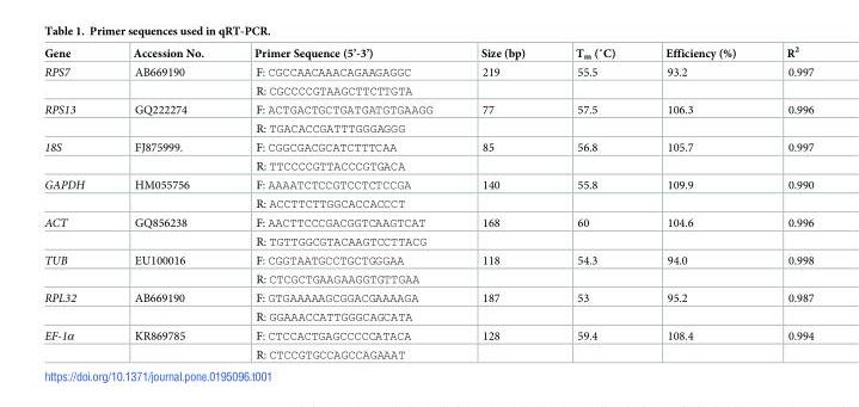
<table><thead><tr><td>Gene</td><td>Accession No.</td><td>Primer Sequence (5’-3’)</td><td>Size (bp)</td><td>Tm (˚C)</td><td>Efficiency (%)</td><td>R<sup>2</sup></td></tr></thead><tbody><tr><td rowspan="2">RPS7</td><td>AB669190</td><td>F: CGCCAACAAACAGAAGAGGC</td><td>219</td><td>55.5</td><td>93.2</td><td>0.997</td></tr><tr><td></td><td>R: CGCCCCGTAAGCTTCTTGTA</td><td></td><td></td><td></td><td></td></tr><tr><td rowspan="2">RPS13</td><td>GQ222274</td><td>F: ACTGACTGCTGATGATGTGAAGG</td><td>77</td><td>57.5</td><td>106.3</td><td>0.996</td></tr><tr><td></td><td>R: TGACACCGATTTGGGAGGG</td><td></td><td></td><td></td><td></td></tr><tr><td rowspan="2">18S</td><td>FJ875999.</td><td>F: CGGCGACGCATCTTTCAA</td><td>85</td><td>56.8</td><td>105.7</td><td>0.997</td></tr><tr><td></td><td>R: TTCCCCGTTACCCGTGACA</td><td></td><td></td><td></td><td></td></tr><tr><td rowspan="2">GAPDH</td><td>HM055756</td><td>F: AAAATCTCCGTCCTCTCCGA</td><td>140</td><td>55.8</td><td>109.9</td><td>0.990</td></tr><tr><td></td><td>R: ACCTTCTTGGCACCACCCT</td><td></td><td></td><td></td><td></td></tr><tr><td rowspan="2">ACT</td><td>GQ856238</td><td>F: AACTTCCCGACGGTCAAGTCAT</td><td>168</td><td>60</td><td>104.6</td><td>0.996</td></tr><tr><td></td><td>R: TGTTGGCGTACAAGTCCTTACG</td><td></td><td></td><td></td><td></td></tr><tr><td rowspan="2">TUB</td><td>EU100016</td><td>F: CGGTAATGCCTGCTGGGAA</td><td>118</td><td>54.3</td><td>94.0</td><td>0.998</td></tr><tr><td></td><td>R: CTCGCTGAAGAAGGTGTTGAA</td><td></td><td></td><td></td><td></td></tr><tr><td rowspan="2">RPL32</td><td>AB669190</td><td>F: GTGAAAAAGCGGACGAAAAGA</td><td>187</td><td>53</td><td>95.2</td><td>0.987</td></tr><tr><td></td><td>R: GGAAACCATTGGGCAGCATA</td><td></td><td></td><td></td><td></td></tr><tr><td rowspan="2">EF-1α</td><td>KR869785</td><td>F: CTCCACTGAGCCCCCATACA</td><td>128</td><td>59.4</td><td>108.4</td><td>0.994</td></tr><tr><td></td><td>R: CTCCGTGCCAGCCAGAAAT</td><td></td><td></td><td></td><td></td></tr></tbody></table>